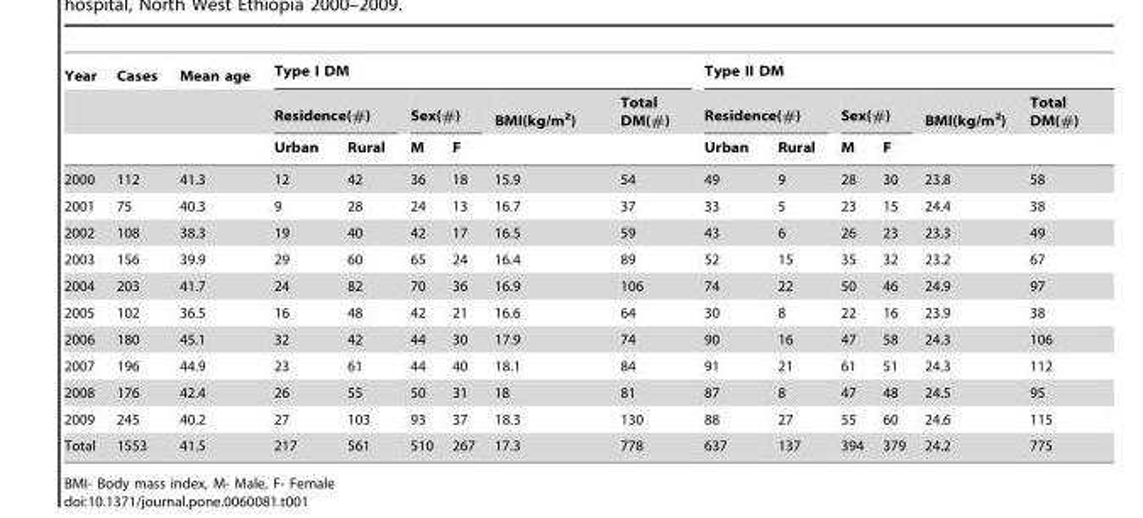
<table><thead><tr><td rowspan="3">Year</td><td rowspan="3">Cases</td><td rowspan="3">Mean age</td><td colspan="6">Type I DM</td><td colspan="6">Type II DM</td></tr><tr><td colspan="2">Residence(#)</td><td colspan="2">Sex(#)</td><td rowspan="2">BMI(kg/m<sup>2</sup>)</td><td rowspan="2">Total DM(#)</td><td colspan="2">Residence(#)</td><td colspan="2">Sex(#)</td><td rowspan="2">BMI(kg/m<sup>2</sup>)</td><td rowspan="2">Total DM(#)</td></tr><tr><td>Urban</td><td>Rural</td><td>M</td><td>F</td><td>Urban</td><td>Rural</td><td>M</td><td>F</td></tr></thead><tbody><tr><td>2000</td><td>112</td><td>41.3</td><td>12</td><td>42</td><td>36</td><td>18</td><td>15.9</td><td>54</td><td>49</td><td>9</td><td>28</td><td>30</td><td>23.8</td><td>58</td></tr><tr><td>2001</td><td>75</td><td>40.3</td><td>9</td><td>28</td><td>24</td><td>13</td><td>16.7</td><td>37</td><td>33</td><td>5</td><td>23</td><td>15</td><td>24.4</td><td>38</td></tr><tr><td>2002</td><td>108</td><td>38.3</td><td>19</td><td>40</td><td>42</td><td>17</td><td>16.5</td><td>59</td><td>43</td><td>6</td><td>26</td><td>23</td><td>23.3</td><td>49</td></tr><tr><td>2003</td><td>156</td><td>39.9</td><td>29</td><td>60</td><td>65</td><td>24</td><td>16.4</td><td>89</td><td>52</td><td>15</td><td>35</td><td>32</td><td>23.2</td><td>67</td></tr><tr><td>2004</td><td>203</td><td>41.7</td><td>24</td><td>82</td><td>70</td><td>36</td><td>16.9</td><td>106</td><td>74</td><td>22</td><td>50</td><td>46</td><td>24.9</td><td>97</td></tr><tr><td>2005</td><td>102</td><td>36.5</td><td>16</td><td>48</td><td>42</td><td>21</td><td>16.6</td><td>64</td><td>30</td><td>8</td><td>22</td><td>16</td><td>23.9</td><td>38</td></tr><tr><td>2006</td><td>180</td><td>45.1</td><td>32</td><td>42</td><td>44</td><td>30</td><td>17.9</td><td>74</td><td>90</td><td>16</td><td>47</td><td>58</td><td>24.3</td><td>106</td></tr><tr><td>2007</td><td>196</td><td>44.9</td><td>23</td><td>61</td><td>44</td><td>40</td><td>18.1</td><td>84</td><td>91</td><td>21</td><td>61</td><td>51</td><td>24.3</td><td>112</td></tr><tr><td>2008</td><td>176</td><td>42.4</td><td>26</td><td>55</td><td>50</td><td>31</td><td>18</td><td>81</td><td>87</td><td>8</td><td>47</td><td>48</td><td>24.5</td><td>95</td></tr><tr><td>2009</td><td>245</td><td>40.2</td><td>27</td><td>103</td><td>93</td><td>37</td><td>18.3</td><td>130</td><td>88</td><td>27</td><td>55</td><td>60</td><td>24.6</td><td>115</td></tr><tr><td>Total</td><td>1553</td><td>41.5</td><td>217</td><td>561</td><td>510</td><td>267</td><td>17.3</td><td>778</td><td>637</td><td>137</td><td>394</td><td>379</td><td>24.2</td><td>775</td></tr></tbody></table>